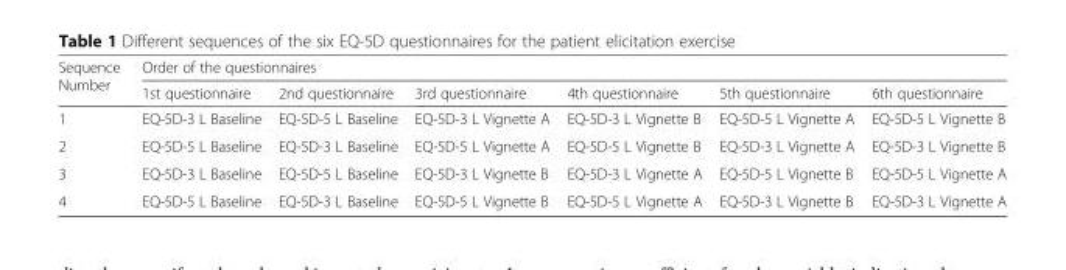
<table><thead><tr><td rowspan="2">Sequence Number</td><td colspan="6">Order of the questionnaires</td></tr><tr><td>1st questionnaire</td><td>2nd questionnaire</td><td>3rd questionnaire</td><td>4th questionnaire</td><td>5th questionnaire</td><td>6th questionnaire</td></tr></thead><tbody><tr><td>1</td><td>EQ-5D-3 L Baseline</td><td>EQ-5D-5 L Baseline</td><td>EQ-5D-3 L Vignette A</td><td>EQ-5D-3 L Vignette B</td><td>EQ-5D-5 L Vignette A</td><td>EQ-5D-5 L Vignette B</td></tr><tr><td>2</td><td>EQ-5D-5 L Baseline</td><td>EQ-5D-3 L Baseline</td><td>EQ-5D-5 L Vignette A</td><td>EQ-5D-5 L Vignette B</td><td>EQ-5D-3 L Vignette A</td><td>EQ-5D-3 L Vignette B</td></tr><tr><td>3</td><td>EQ-5D-3 L Baseline</td><td>EQ-5D-5 L Baseline</td><td>EQ-5D-3 L Vignette B</td><td>EQ-5D-3 L Vignette A</td><td>EQ-5D-5 L Vignette B</td><td>EQ-5D-5 L Vignette A</td></tr><tr><td>4</td><td>EQ-5D-5 L Baseline</td><td>EQ-5D-3 L Baseline</td><td>EQ-5D-5 L Vignette B</td><td>EQ-5D-5 L Vignette A</td><td>EQ-5D-3 L Vignette B</td><td>EQ-5D-3 L Vignette A</td></tr></tbody></table>